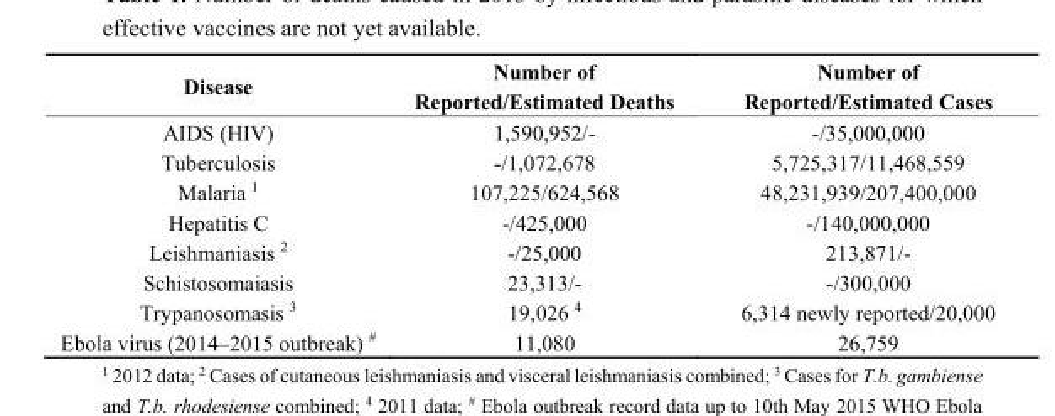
<table><thead><tr><td>Disease</td><td>Number of Reported/Estimated Deaths</td><td>Number of Reported/Estimated Cases</td></tr></thead><tbody><tr><td>AIDS (HIV)</td><td>1,590,952/-</td><td>-/35,000,000</td></tr><tr><td>Tuberculosis</td><td>-/1,072,678</td><td>5,725,317/11,468,559</td></tr><tr><td>Malaria <sup>1</sup></td><td>107,225/624,568</td><td>48,231,939/207,400,000</td></tr><tr><td>Hepatitis C</td><td>-/425,000</td><td>-/140,000,000</td></tr><tr><td>Leishmaniasis <sup>2</sup></td><td>-/25,000</td><td>213,871/-</td></tr><tr><td>Schistosomaiasis</td><td>23,313/-</td><td>-/300,000</td></tr><tr><td>Trypanosomasis <sup>3</sup></td><td>19,026 <sup>4</sup></td><td>6,314 newly reported/20,000</td></tr><tr><td>Ebola virus (2014–2015 outbreak) <sup>#</sup></td><td>11,080</td><td>26,759</td></tr></tbody></table>